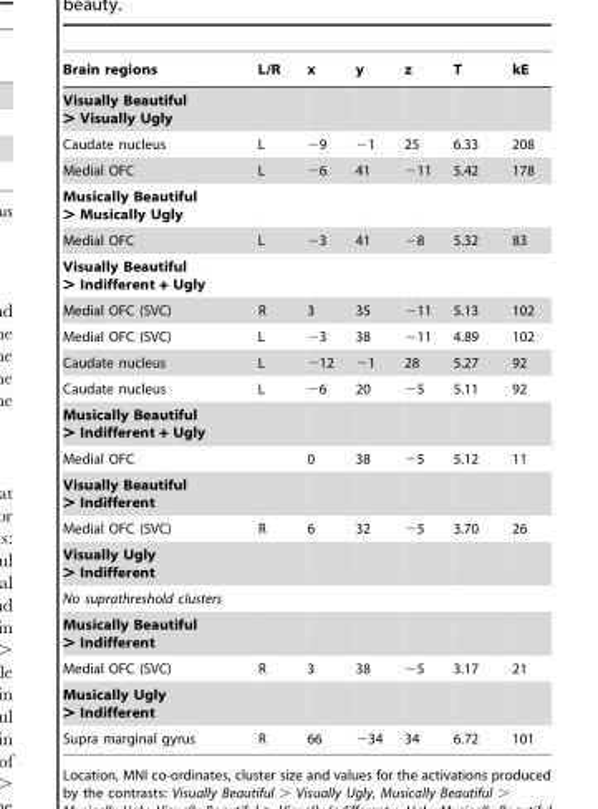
<table><thead><tr><td>Brain regions</td><td>L/R</td><td>x</td><td>y</td><td>z</td><td>T</td><td>kE</td></tr></thead><tbody><tr><td colspan="7">Visually Beautiful &gt; Visually Ugly</td></tr><tr><td>Caudate nucleus</td><td>L</td><td>−9</td><td>−1</td><td>25</td><td>6.33</td><td>208</td></tr><tr><td>Medial OFC</td><td>L</td><td>−6</td><td>41</td><td>−11</td><td>5.42</td><td>178</td></tr><tr><td colspan="7">Musically Beautiful &gt; Musically Ugly</td></tr><tr><td>Medial OFC</td><td>L</td><td>−3</td><td>41</td><td>−8</td><td>5.32</td><td>83</td></tr><tr><td colspan="7">Visually Beautiful &gt; Indifferent + Ugly</td></tr><tr><td>Medial OFC (SVC)</td><td>R</td><td>3</td><td>35</td><td>−11</td><td>5.13</td><td>102</td></tr><tr><td>Medial OFC (SVC)</td><td>L</td><td>−3</td><td>38</td><td>−11</td><td>4.89</td><td>102</td></tr><tr><td>Caudate nucleus</td><td>L</td><td>−12</td><td>−1</td><td>28</td><td>5.27</td><td>92</td></tr><tr><td>Caudate nucleus</td><td>L</td><td>−6</td><td>20</td><td>−5</td><td>5.11</td><td>92</td></tr><tr><td colspan="7">Musically Beautiful &gt; Indifferent + Ugly</td></tr><tr><td>Medial OFC</td><td></td><td>0</td><td>38</td><td>−5</td><td>5.12</td><td>11</td></tr><tr><td colspan="7">Visually Beautiful &gt; Indifferent</td></tr><tr><td>Medial OFC (SVC)</td><td>R</td><td>6</td><td>32</td><td>−5</td><td>3.70</td><td>26</td></tr><tr><td colspan="7">Visually Ugly &gt; Indifferent</td></tr><tr><td colspan="7">No suprathreshold clusters</td></tr><tr><td colspan="7">Musically Beautiful &gt; Indifferent</td></tr><tr><td>Medial OFC (SVC)</td><td>R</td><td>3</td><td>38</td><td>−5</td><td>3.17</td><td>21</td></tr><tr><td colspan="7">Musically Ugly &gt; Indifferent</td></tr><tr><td>Supra marginal gyrus</td><td>R</td><td>66</td><td>−34</td><td>34</td><td>6.72</td><td>101</td></tr></tbody></table>